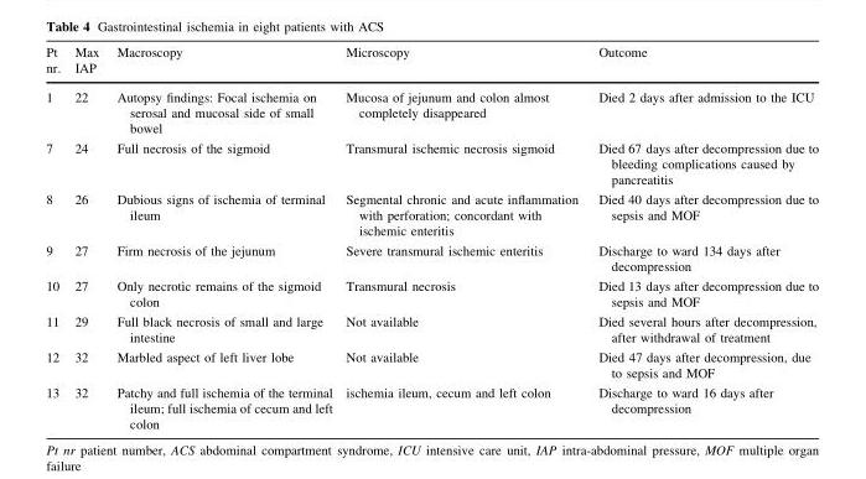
<table><thead><tr><td>Pt nr.</td><td>Max IAP</td><td>Macroscopy</td><td>Microscopy</td><td>Outcome</td></tr></thead><tbody><tr><td>1</td><td>22</td><td>Autopsy findings: Focal ischemia on serosal and mucosal side of small bowel</td><td>Mucosa of jejunum and colon almost completely disappeared</td><td>Died 2 days after admission to the ICU</td></tr><tr><td>7</td><td>24</td><td>Full necrosis of the sigmoid</td><td>Transmural ischemic necrosis sigmoid</td><td>Died 67 days after decompression due to bleeding complications caused by pancreatitis</td></tr><tr><td>8</td><td>26</td><td>Dubious signs of ischemia of terminal ileum</td><td>Segmental chronic and acute inflammation with perforation; concordant with ischemic enteritis</td><td>Died 40 days after decompression due to sepsis and MOF</td></tr><tr><td>9</td><td>27</td><td>Firm necrosis of the jejunum</td><td>Severe transmural ischemic enteritis</td><td>Discharge to ward 134 days after decompression</td></tr><tr><td>10</td><td>27</td><td>Only necrotic remains of the sigmoid colon</td><td>Transmural necrosis</td><td>Died 13 days after decompression due to sepsis and MOF</td></tr><tr><td>11</td><td>29</td><td>Full black necrosis of small and large intestine</td><td>Not available</td><td>Died several hours after decompression, after withdrawal of treatment</td></tr><tr><td>12</td><td>32</td><td>Marbled aspect of left liver lobe</td><td>Not available</td><td>Died 47 days after decompression, due to sepsis and MOF</td></tr><tr><td>13</td><td>32</td><td>Patchy and full ischemia of the terminal ileum; full ischemia of cecum and left colon</td><td>ischemia ileum, cecum and left colon</td><td>Discharge to ward 16 days after decompression</td></tr></tbody></table>